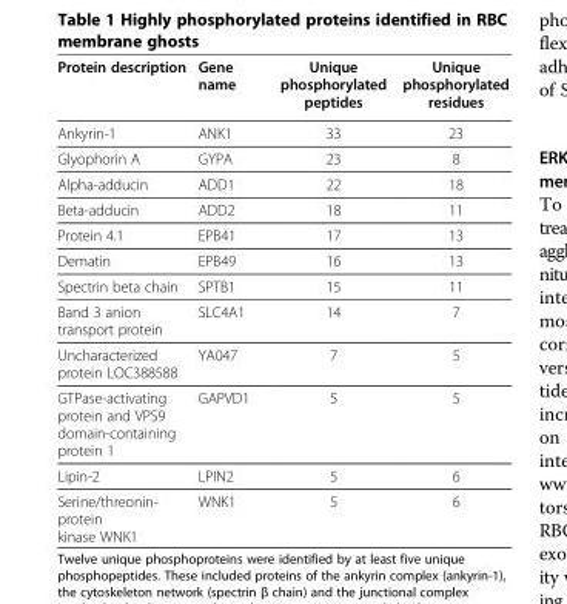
<table><thead><tr><td>Protein description</td><td>Gene name</td><td>Unique phosphorylated peptides</td><td>Unique phosphorylated residues</td></tr></thead><tbody><tr><td>Ankyrin-1</td><td>ANK1</td><td>33</td><td>23</td></tr><tr><td>Glyophorin A</td><td>GYPA</td><td>23</td><td>8</td></tr><tr><td>Alpha-adducin</td><td>ADD1</td><td>22</td><td>18</td></tr><tr><td>Beta-adducin</td><td>ADD2</td><td>18</td><td>11</td></tr><tr><td>Protein 4.1</td><td>EPB41</td><td>17</td><td>13</td></tr><tr><td>Dematin</td><td>EPB49</td><td>16</td><td>13</td></tr><tr><td>Spectrin beta chain</td><td>SPTB1</td><td>15</td><td>11</td></tr><tr><td>Band 3 anion transport protein</td><td>SLC4A1</td><td>14</td><td>7</td></tr><tr><td>Uncharacterized protein LOC388588</td><td>YA047</td><td>7</td><td>5</td></tr><tr><td>GTPase-activating protein and VPS9 domain-containing protein 1</td><td>GAPVD1</td><td>5</td><td>5</td></tr><tr><td>Lipin-2</td><td>LPIN2</td><td>5</td><td>6</td></tr><tr><td>Serine/threonin- protein kinase WNK1</td><td>WNK1</td><td>5</td><td>6</td></tr></tbody></table>